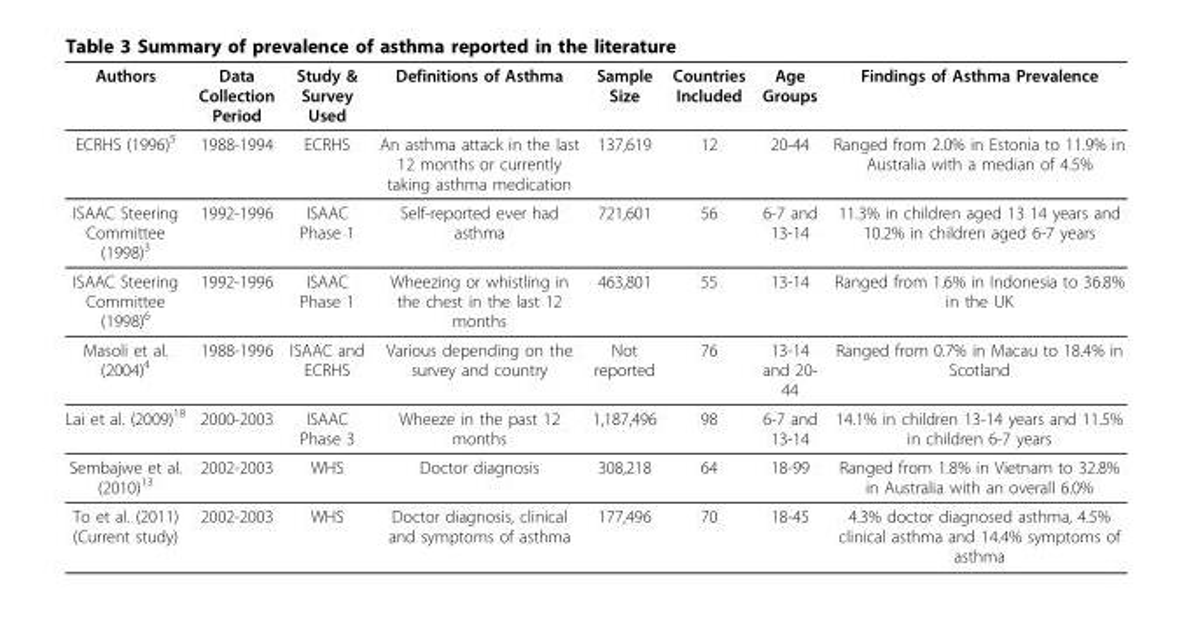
<table><thead><tr><td>Authors</td><td>Data Collection Period</td><td>Study &amp; Survey Used</td><td>Definitions of Asthma</td><td>Sample Size</td><td>Countries Included</td><td>Age Groups</td><td>Findings of Asthma Prevalence</td></tr></thead><tbody><tr><td>ECRHS (1996)<sup>5</sup></td><td>1988-1994</td><td>ECRHS</td><td>An asthma attack in the last 12 months or currently taking asthma medication</td><td>137,619</td><td>12</td><td>20-44</td><td>Ranged from 2.0% in Estonia to 11.9% in Australia with a median of 4.5%</td></tr><tr><td>ISAAC Steering Committee (1998)<sup>3</sup></td><td>1992-1996</td><td>ISAAC Phase 1</td><td>Self-reported ever had asthma</td><td>721,601</td><td>56</td><td>6-7 and 13-14</td><td>11.3% in children aged 13 14 years and 10.2% in children aged 6-7 years</td></tr><tr><td>ISAAC Steering Committee (1998)<sup>6</sup></td><td>1992-1996</td><td>ISAAC Phase 1</td><td>Wheezing or whistling in the chest in the last 12 months</td><td>463,801</td><td>55</td><td>13-14</td><td>Ranged from 1.6% in Indonesia to 36.8% in the UK</td></tr><tr><td>Masoli et al. (2004)<sup>4</sup></td><td>1988-1996</td><td>ISAAC and ECRHS</td><td>Various depending on the survey and country</td><td>Not reported</td><td>76</td><td>13-14 and 20- 44</td><td>Ranged from 0.7% in Macau to 18.4% in Scotland</td></tr><tr><td>Lai et al. (2009)<sup>18</sup></td><td>2000-2003</td><td>ISAAC Phase 3</td><td>Wheeze in the past 12 months</td><td>1,187,496</td><td>98</td><td>6-7 and 13-14</td><td>14.1% in children 13-14 years and 11.5% in children 6-7 years</td></tr><tr><td>Sembajwe et al. (2010)<sup>13</sup></td><td>2002-2003</td><td>WHS</td><td>Doctor diagnosis</td><td>308,218</td><td>64</td><td>18-99</td><td>Ranged from 1.8% in Vietnam to 32.8% in Australia with an overall 6.0%</td></tr><tr><td>To et al. (2011) (Current study)</td><td>2002-2003</td><td>WHS</td><td>Doctor diagnosis, clinical and symptoms of asthma</td><td>177,496</td><td>70</td><td>18-45</td><td>4.3% doctor diagnosed asthma, 4.5% clinical asthma and 14.4% symptoms of asthma</td></tr></tbody></table>